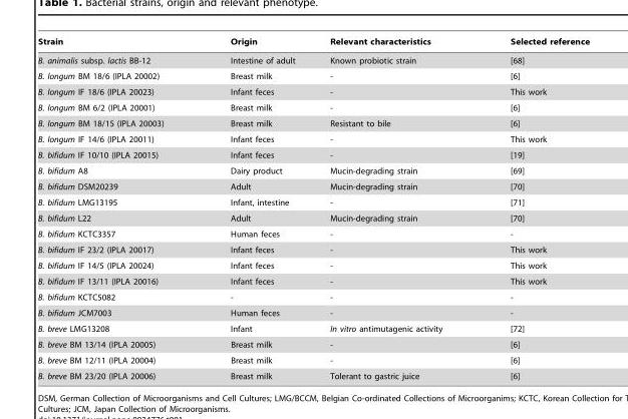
<table><thead><tr><td>Strain</td><td>Origin</td><td>Relevant characteristics</td><td>Selected reference</td></tr></thead><tbody><tr><td>B. animalis subsp. lactis BB-12</td><td>Intestine of adult</td><td>Known probiotic strain</td><td>[68]</td></tr><tr><td>B. longum BM 18/6 (IPLA 20002)</td><td>Breast milk</td><td>-</td><td>[6]</td></tr><tr><td>B. longum IF 18/6 (IPLA 20023)</td><td>Infant feces</td><td>-</td><td>This work</td></tr><tr><td>B. longum BM 6/2 (IPLA 20001)</td><td>Breast milk</td><td>-</td><td>[6]</td></tr><tr><td>B. longum BM 18/15 (IPLA 20003)</td><td>Breast milk</td><td>Resistant to bile</td><td>[6]</td></tr><tr><td>B. longum IF 14/6 (IPLA 20011)</td><td>Infant feces</td><td>-</td><td>This work</td></tr><tr><td>B. bifidum IF 10/10 (IPLA 20015)</td><td>Infant feces</td><td>-</td><td>[19]</td></tr><tr><td>B. bifidum A8</td><td>Dairy product</td><td>Mucin-degrading strain</td><td>[69]</td></tr><tr><td>B. bifidum DSM20239</td><td>Adult</td><td>Mucin-degrading strain</td><td>[70]</td></tr><tr><td>B. bifidum LMG13195</td><td>Infant, intestine</td><td>-</td><td>[71]</td></tr><tr><td>B. bifidum L22</td><td>Adult</td><td>Mucin-degrading strain</td><td>[70]</td></tr><tr><td>B. bifidum KCTC3357</td><td>Human feces</td><td>-</td><td>-</td></tr><tr><td>B. bifidum IF 23/2 (IPLA 20017)</td><td>Infant feces</td><td>-</td><td>This work</td></tr><tr><td>B. bifidum IF 14/5 (IPLA 20024)</td><td>Infant feces</td><td>-</td><td>This work</td></tr><tr><td>B. bifidum IF 13/11 (IPLA 20016)</td><td>Infant feces</td><td>-</td><td>This work</td></tr><tr><td>B. bifidum KCTC5082</td><td>-</td><td>-</td><td>-</td></tr><tr><td>B. bifidum JCM7003</td><td>Human feces</td><td>-</td><td>-</td></tr><tr><td>B. breve LMG13208</td><td>Infant</td><td>In vitro antimutagenic activity</td><td>[72]</td></tr><tr><td>B. breve BM 13/14 (IPLA 20005)</td><td>Breast milk</td><td>-</td><td>[6]</td></tr><tr><td>B. breve BM 12/11 (IPLA 20004)</td><td>Breast milk</td><td>-</td><td>[6]</td></tr><tr><td>B. breve BM 23/20 (IPLA 20006)</td><td>Breast milk</td><td>Tolerant to gastric juice</td><td>[6]</td></tr></tbody></table>